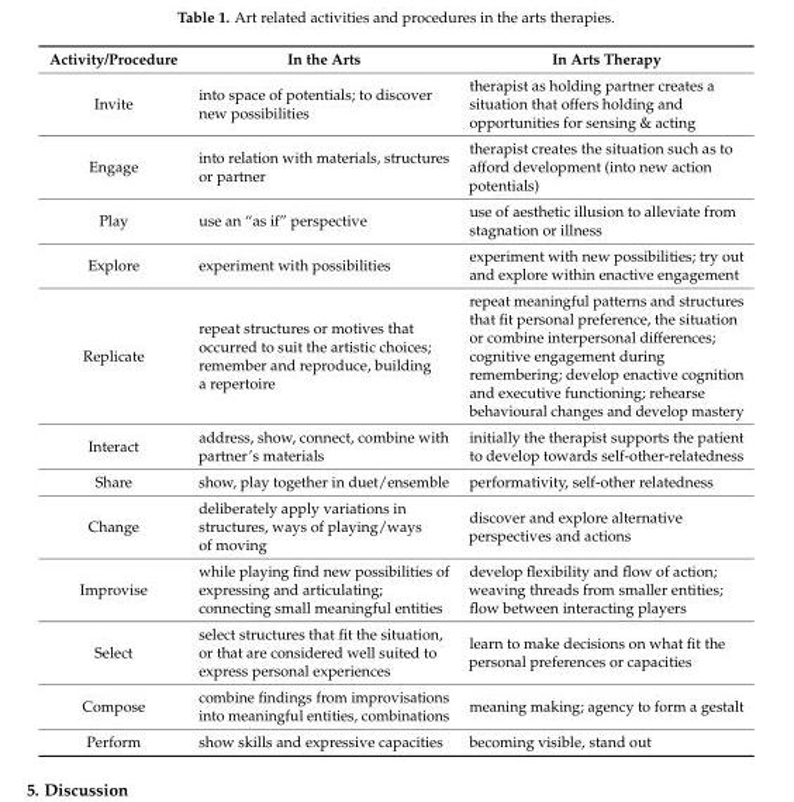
<table><thead><tr><td>Activity/Procedure</td><td>In the Arts</td><td>In Arts Therapy</td></tr></thead><tbody><tr><td>Invite</td><td>into space of potentials; to discover new possibilities</td><td>therapist as holding partner creates a situation that offers holding and opportunities for sensing &amp; acting</td></tr><tr><td>Engage</td><td>into relation with materials, structures or partner</td><td>therapist creates the situation such as to afford development (into new action potentials)</td></tr><tr><td>Play</td><td>use an “as if” perspective</td><td>use of aesthetic illusion to alleviate from stagnation or illness</td></tr><tr><td>Explore</td><td>experiment with possibilities</td><td>experiment with new possibilities; try out and explore within enactive engagement</td></tr><tr><td>Replicate</td><td>repeat structures or motives that occurred to suit the artistic choices; remember and reproduce, building a repertoire</td><td>repeat meaningful patterns and structures that fit personal preference, the situation or combine interpersonal differences; cognitive engagement during remembering; develop enactive cognition and executive functioning; rehearse behavioural changes and develop mastery</td></tr><tr><td>Interact</td><td>address, show, connect, combine with partner’s materials</td><td>initially the therapist supports the patient to develop towards self-other-relatedness</td></tr><tr><td>Share</td><td>show, play together in duet/ensemble</td><td>performativity, self-other relatedness</td></tr><tr><td>Change</td><td>deliberately apply variations in structures, ways of playing/ways of moving</td><td>discover and explore alternative perspectives and actions</td></tr><tr><td>Improvise</td><td>while playing find new possibilities of expressing and articulating; connecting small meaningful entities</td><td>develop flexibility and flow of action; weaving threads from smaller entities; flow between interacting players</td></tr><tr><td>Select</td><td>select structures that fit the situation, or that are considered well suited to express personal experiences</td><td>learn to make decisions on what fit the personal preferences or capacities</td></tr><tr><td>Compose</td><td>combine findings from improvisations into meaningful entities, combinations</td><td>meaning making; agency to form a gestalt</td></tr><tr><td>Perform</td><td>show skills and expressive capacities</td><td>becoming visible, stand out</td></tr></tbody></table>